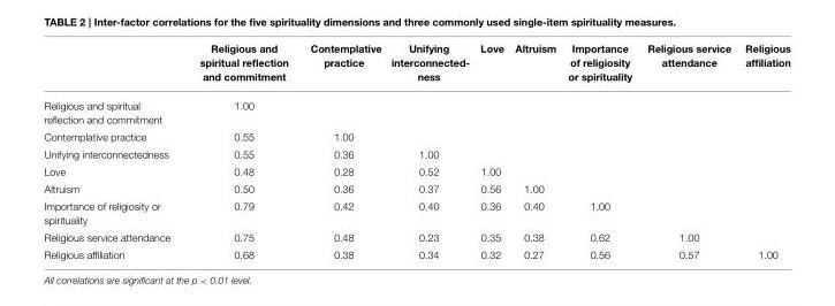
<table><thead><tr><td></td><td>Religious and spiritual reflection and commitment</td><td>Contemplative practice</td><td>Unifying interconnected- ness</td><td>Love</td><td>Altruism</td><td>Importance of religiosity or spirituality</td><td>Religious service attendance</td><td>Religious affiliation</td></tr></thead><tbody><tr><td>Religious and spiritual reflection and commitment</td><td>1.00</td><td></td><td></td><td></td><td></td><td></td><td></td><td></td></tr><tr><td>Contemplative practice</td><td>0.55</td><td>1.00</td><td></td><td></td><td></td><td></td><td></td><td></td></tr><tr><td>Unifying interconnectedness</td><td>0.55</td><td>0.36</td><td>1.00</td><td></td><td></td><td></td><td></td><td></td></tr><tr><td>Love</td><td>0.48</td><td>0.28</td><td>0.52</td><td>1.00</td><td></td><td></td><td></td><td></td></tr><tr><td>Altruism</td><td>0.50</td><td>0.36</td><td>0.37</td><td>0.56</td><td>1.00</td><td></td><td></td><td></td></tr><tr><td>Importance of religiosity or spirituality</td><td>0.79</td><td>0.42</td><td>0.40</td><td>0.36</td><td>0.40</td><td>1.00</td><td></td><td></td></tr><tr><td>Religious service attendance</td><td>0.75</td><td>0.48</td><td>0.23</td><td>0.35</td><td>0.38</td><td>0.62</td><td>1.00</td><td></td></tr><tr><td>Religious affiliation</td><td>0.68</td><td>0.38</td><td>0.34</td><td>0.32</td><td>0.27</td><td>0.56</td><td>0.57</td><td>1.00</td></tr></tbody></table>